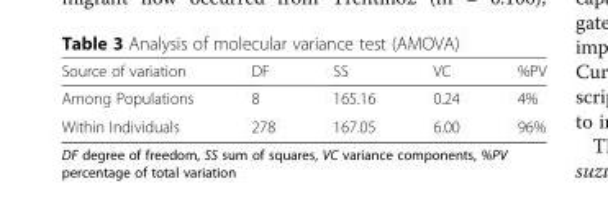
<table><thead><tr><td>Source of variation</td><td>DF</td><td>SS</td><td>VC</td><td>%PV</td></tr></thead><tbody><tr><td>Among Populations</td><td>8</td><td>165.16</td><td>0.24</td><td>4%</td></tr><tr><td>Within Individuals</td><td>278</td><td>167.05</td><td>6.00</td><td>96%</td></tr></tbody></table>